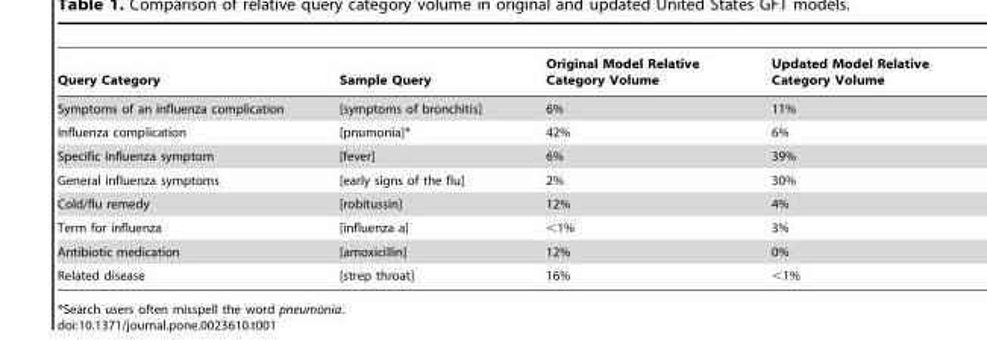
<table><thead><tr><td>Query Category</td><td>Sample Query</td><td>Original Model Relative Category Volume</td><td>Updated Model Relative Category Volume</td></tr></thead><tbody><tr><td>Symptoms of an influenza complication</td><td>[symptoms of bronchitis]</td><td>6%</td><td>11%</td></tr><tr><td>Influenza complication</td><td>[pnumonia]*</td><td>42%</td><td>6%</td></tr><tr><td>Specific influenza symptom</td><td>[fever]</td><td>6%</td><td>39%</td></tr><tr><td>General influenza symptoms</td><td>[early signs of the flu]</td><td>2%</td><td>30%</td></tr><tr><td>Cold/flu remedy</td><td>[robitussin]</td><td>12%</td><td>4%</td></tr><tr><td>Term for influenza</td><td>[influenza a]</td><td>&lt;1%</td><td>3%</td></tr><tr><td>Antibiotic medication</td><td>[amoxicillin]</td><td>12%</td><td>0%</td></tr><tr><td>Related disease</td><td>[strep throat]</td><td>16%</td><td>&lt;1%</td></tr></tbody></table>